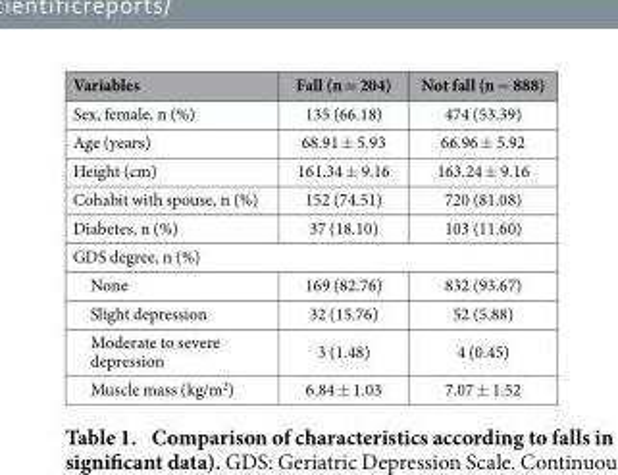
<table><thead><tr><td>Variables</td><td>Fall (n = 204)</td><td>Not fall (n = 888)</td></tr></thead><tbody><tr><td>Sex, female, n (%)</td><td>135 (66.18)</td><td>474 (53.39)</td></tr><tr><td>Age (years)</td><td>68.91 ± 5.93</td><td>66.96 ± 5.92</td></tr><tr><td>Height (cm)</td><td>161.34 ± 9.16</td><td>163.24 ± 9.16</td></tr><tr><td>Cohabit with spouse, n (%)</td><td>152 (74.51)</td><td>720 (81.08)</td></tr><tr><td>Diabetes, n (%)</td><td>37 (18.10)</td><td>103 (11.60)</td></tr><tr><td colspan="3">GDS degree, n (%)</td></tr><tr><td>None</td><td>169 (82.76)</td><td>832 (93.67)</td></tr><tr><td>Slight depression</td><td>32 (15.76)</td><td>52 (5.88)</td></tr><tr><td>Moderate to severe depression</td><td>3 (1.48)</td><td>4 (0.45)</td></tr><tr><td>Muscle mass (kg/m<sup>2</sup>)</td><td>6.84 ± 1.03</td><td>7.07 ± 1.52</td></tr></tbody></table>